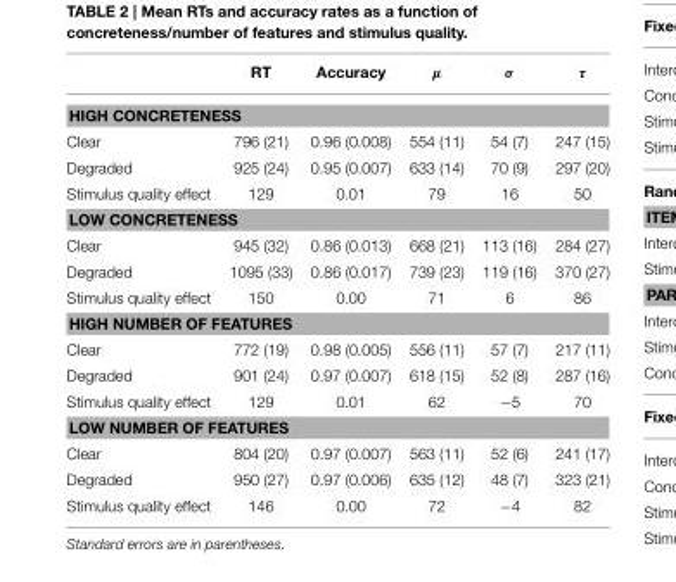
<table><thead><tr><td></td><td>RT</td><td>Accuracy</td><td>µ</td><td>σ</td><td>τ</td></tr></thead><tbody><tr><td colspan="6">HIGH CONCRETENESS</td></tr><tr><td>Clear</td><td>796 (21)</td><td>0.96 (0.008)</td><td>554 (11)</td><td>54 (7)</td><td>247 (15)</td></tr><tr><td>Degraded</td><td>925 (24)</td><td>0.95 (0.007)</td><td>633 (14)</td><td>70 (9)</td><td>297 (20)</td></tr><tr><td>Stimulus quality effect</td><td>129</td><td>0.01</td><td>79</td><td>16</td><td>50</td></tr><tr><td colspan="6">LOW CONCRETENESS</td></tr><tr><td>Clear</td><td>945 (32)</td><td>0.86 (0.013)</td><td>668 (21)</td><td>113 (16)</td><td>284 (27)</td></tr><tr><td>Degraded</td><td>1095 (33)</td><td>0.86 (0.017)</td><td>739 (23)</td><td>119 (16)</td><td>370 (27)</td></tr><tr><td>Stimulus quality effect</td><td>150</td><td>0.00</td><td>71</td><td>6</td><td>86</td></tr><tr><td colspan="6">HIGH NUMBER OF FEATURES</td></tr><tr><td>Clear</td><td>772 (19)</td><td>0.98 (0.005)</td><td>556 (11)</td><td>57 (7)</td><td>217 (11)</td></tr><tr><td>Degraded</td><td>901 (24)</td><td>0.97 (0.007)</td><td>618 (15)</td><td>52 (8)</td><td>287 (16)</td></tr><tr><td>Stimulus quality effect</td><td>129</td><td>0.01</td><td>62</td><td>−5</td><td>70</td></tr><tr><td colspan="6">LOW NUMBER OF FEATURES</td></tr><tr><td>Clear</td><td>804 (20)</td><td>0.97 (0.007)</td><td>563 (11)</td><td>52 (6)</td><td>241 (17)</td></tr><tr><td>Degraded</td><td>950 (27)</td><td>0.97 (0.006)</td><td>635 (12)</td><td>48 (7)</td><td>323 (21)</td></tr><tr><td>Stimulus quality effect</td><td>146</td><td>0.00</td><td>72</td><td>−4</td><td>82</td></tr></tbody></table>